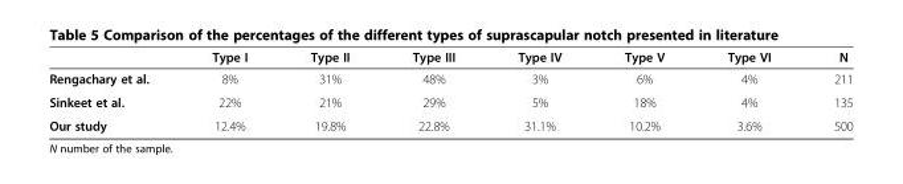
<table><thead><tr><td></td><td>Type I</td><td>Type II</td><td>Type III</td><td>Type IV</td><td>Type V</td><td>Type VI</td><td>N</td></tr></thead><tbody><tr><td>Rengachary et al.</td><td>8%</td><td>31%</td><td>48%</td><td>3%</td><td>6%</td><td>4%</td><td>211</td></tr><tr><td>Sinkeet et al.</td><td>22%</td><td>21%</td><td>29%</td><td>5%</td><td>18%</td><td>4%</td><td>135</td></tr><tr><td>Our study</td><td>12.4%</td><td>19.8%</td><td>22.8%</td><td>31.1%</td><td>10.2%</td><td>3.6%</td><td>500</td></tr></tbody></table>